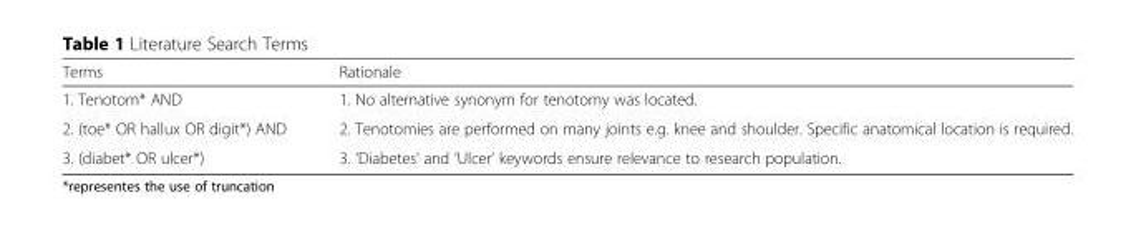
<table><thead><tr><td>Terms</td><td>Rationale</td></tr></thead><tbody><tr><td>1. Tenotom* AND</td><td>1. No alternative synonym for tenotomy was located.</td></tr><tr><td>2. (toe* OR hallux OR digit*) AND</td><td>2. Tenotomies are performed on many joints e.g. knee and shoulder. Specific anatomical location is required.</td></tr><tr><td>3. (diabet* OR ulcer*)</td><td>3. ‘Diabetes’ and ‘Ulcer’ keywords ensure relevance to research population.</td></tr></tbody></table>